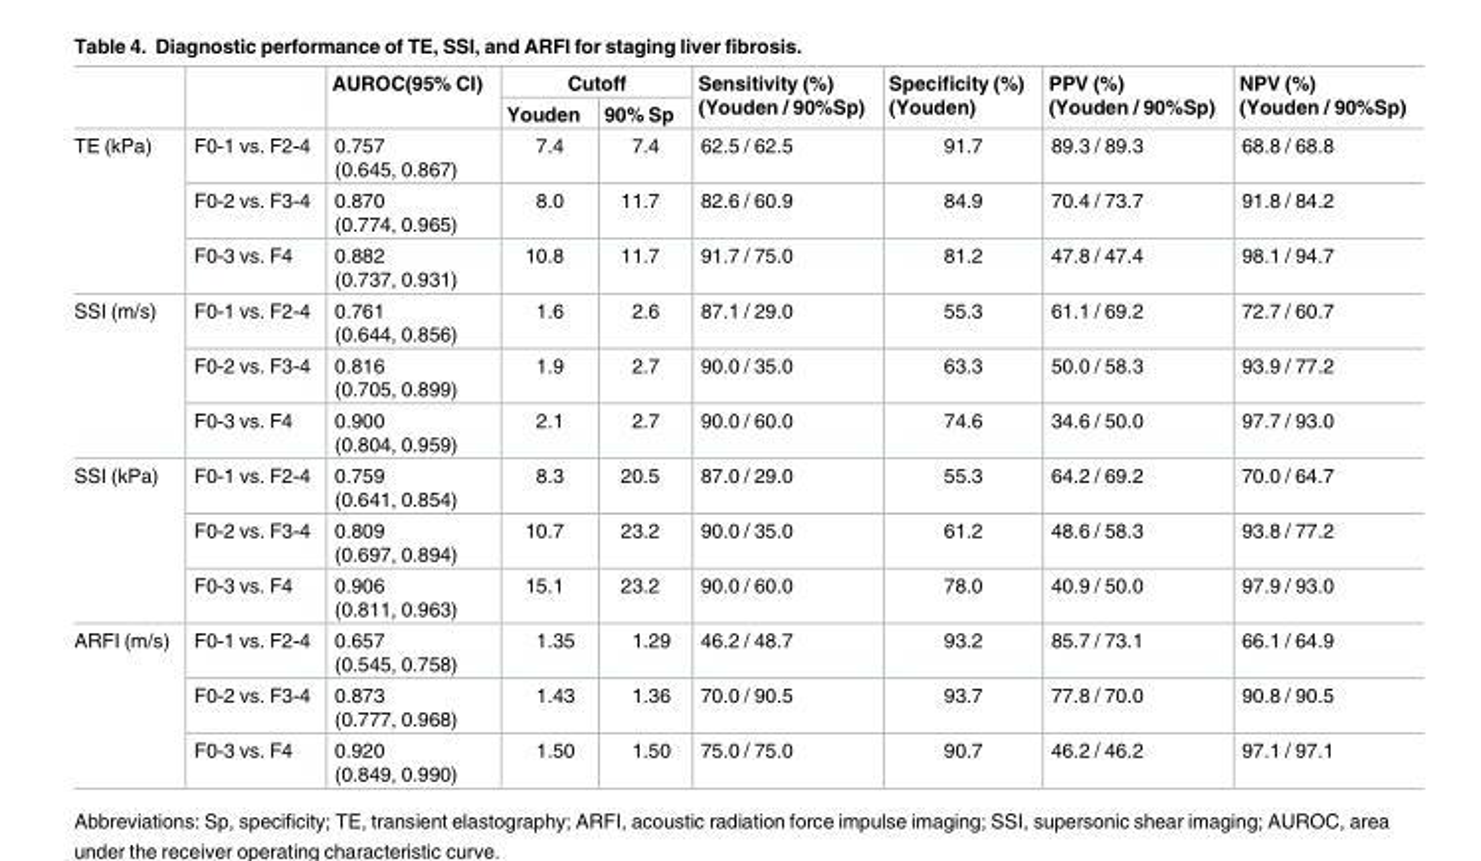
<table><thead><tr><td rowspan="2"></td><td rowspan="2"></td><td rowspan="2">AUROC(95% CI)</td><td colspan="2">Cutoff</td><td rowspan="2">Sensitivity (%) (Youden / 90%Sp)</td><td rowspan="2">Specificity (%) (Youden)</td><td rowspan="2">PPV (%) (Youden / 90%Sp)</td><td rowspan="2">NPV (%) (Youden / 90%Sp)</td></tr><tr><td>Youden</td><td>90% Sp</td></tr></thead><tbody><tr><td rowspan="3">TE (kPa)</td><td>F0-1 vs. F2-4</td><td>0.757 (0.645, 0.867)</td><td>7.4</td><td>7.4</td><td>62.5 / 62.5</td><td>91.7</td><td>89.3 / 89.3</td><td>68.8 / 68.8</td></tr><tr><td>F0-2 vs. F3-4</td><td>0.870 (0.774, 0.965)</td><td>8.0</td><td>11.7</td><td>82.6 / 60.9</td><td>84.9</td><td>70.4 / 73.7</td><td>91.8 / 84.2</td></tr><tr><td>F0-3 vs. F4</td><td>0.882 (0.737, 0.931)</td><td>10.8</td><td>11.7</td><td>91.7 / 75.0</td><td>81.2</td><td>47.8 / 47.4</td><td>98.1 / 94.7</td></tr><tr><td rowspan="3">SSI (m/s)</td><td>F0-1 vs. F2-4</td><td>0.761 (0.644, 0.856)</td><td>1.6</td><td>2.6</td><td>87.1 / 29.0</td><td>55.3</td><td>61.1 / 69.2</td><td>72.7 / 60.7</td></tr><tr><td>F0-2 vs. F3-4</td><td>0.816 (0.705, 0.899)</td><td>1.9</td><td>2.7</td><td>90.0 / 35.0</td><td>63.3</td><td>50.0 / 58.3</td><td>93.9 / 77.2</td></tr><tr><td>F0-3 vs. F4</td><td>0.900 (0.804, 0.959)</td><td>2.1</td><td>2.7</td><td>90.0 / 60.0</td><td>74.6</td><td>34.6 / 50.0</td><td>97.7 / 93.0</td></tr><tr><td rowspan="3">SSI (kPa)</td><td>F0-1 vs. F2-4</td><td>0.759 (0.641, 0.854)</td><td>8.3</td><td>20.5</td><td>87.0 / 29.0</td><td>55.3</td><td>64.2 / 69.2</td><td>70.0 / 64.7</td></tr><tr><td>F0-2 vs. F3-4</td><td>0.809 (0.697, 0.894)</td><td>10.7</td><td>23.2</td><td>90.0 / 35.0</td><td>61.2</td><td>48.6 / 58.3</td><td>93.8 / 77.2</td></tr><tr><td>F0-3 vs. F4</td><td>0.906 (0.811, 0.963)</td><td>15.1</td><td>23.2</td><td>90.0 / 60.0</td><td>78.0</td><td>40.9 / 50.0</td><td>97.9 / 93.0</td></tr><tr><td rowspan="3">ARFI (m/s)</td><td>F0-1 vs. F2-4</td><td>0.657 (0.545, 0.758)</td><td>1.35</td><td>1.29</td><td>46.2 / 48.7</td><td>93.2</td><td>85.7 / 73.1</td><td>66.1 / 64.9</td></tr><tr><td>F0-2 vs. F3-4</td><td>0.873 (0.777, 0.968)</td><td>1.43</td><td>1.36</td><td>70.0 / 90.5</td><td>93.7</td><td>77.8 / 70.0</td><td>90.8 / 90.5</td></tr><tr><td>F0-3 vs. F4</td><td>0.920 (0.849, 0.990)</td><td>1.50</td><td>1.50</td><td>75.0 / 75.0</td><td>90.7</td><td>46.2 / 46.2</td><td>97.1 / 97.1</td></tr></tbody></table>